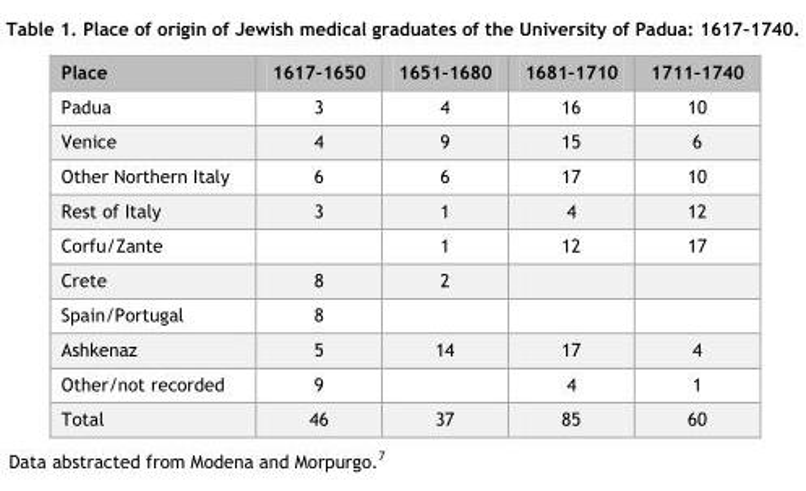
<table><thead><tr><td>Place</td><td>1617–1650</td><td>1651–1680</td><td>1681–1710</td><td>1711–1740</td></tr></thead><tbody><tr><td>Padua</td><td>3</td><td>4</td><td>16</td><td>10</td></tr><tr><td>Venice</td><td>4</td><td>9</td><td>15</td><td>6</td></tr><tr><td>Other Northern Italy</td><td>6</td><td>6</td><td>17</td><td>10</td></tr><tr><td>Rest of Italy</td><td>3</td><td>1</td><td>4</td><td>12</td></tr><tr><td>Corfu/Zante</td><td></td><td>1</td><td>12</td><td>17</td></tr><tr><td>Crete</td><td>8</td><td>2</td><td></td><td></td></tr><tr><td>Spain/Portugal</td><td>8</td><td></td><td></td><td></td></tr><tr><td>Ashkenaz</td><td>5</td><td>14</td><td>17</td><td>4</td></tr><tr><td>Other/not recorded</td><td>9</td><td></td><td>4</td><td>1</td></tr><tr><td>Total</td><td>46</td><td>37</td><td>85</td><td>60</td></tr></tbody></table>